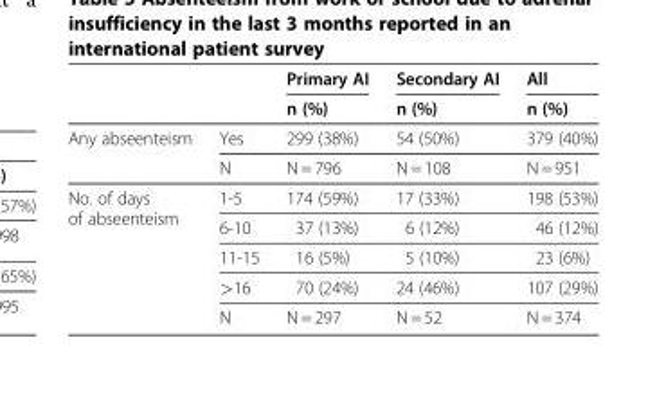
<table><thead><tr><td rowspan="2"></td><td rowspan="2"></td><td rowspan="2">Primary AI n (%)</td><td rowspan="2">Secondary AI n (%)</td><td rowspan="2">All n (%)</td></tr><tr></tr></thead><tbody><tr><td rowspan="2">Any abseenteism</td><td>Yes</td><td>299 (38%)</td><td>54 (50%)</td><td>379 (40%)</td></tr><tr><td>N</td><td>N = 796</td><td>N = 108</td><td>N = 951</td></tr><tr><td rowspan="5">No. of days of abseenteism</td><td>1-5</td><td>174 (59%)</td><td>17 (33%)</td><td>198 (53%)</td></tr><tr><td>6-10</td><td>37 (13%)</td><td>6 (12%)</td><td>46 (12%)</td></tr><tr><td>11-15</td><td>16 (5%)</td><td>5 (10%)</td><td>23 (6%)</td></tr><tr><td>&gt;16</td><td>70 (24%)</td><td>24 (46%)</td><td>107 (29%)</td></tr><tr><td>N</td><td>N = 297</td><td>N = 52</td><td>N = 374</td></tr></tbody></table>